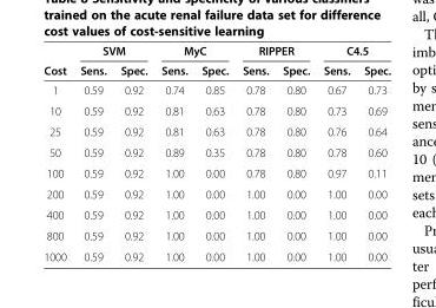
<table><thead><tr><td rowspan="2">Cost</td><td colspan="2">SVM</td><td colspan="2">MyC</td><td colspan="2">RIPPER</td><td colspan="2">C4.5</td></tr><tr><td>Sens.</td><td>Spec.</td><td>Sens.</td><td>Spec.</td><td>Sens.</td><td>Spec.</td><td>Sens.</td><td>Spec.</td></tr></thead><tbody><tr><td>1</td><td>0.59</td><td>0.92</td><td>0.74</td><td>0.85</td><td>0.78</td><td>0.80</td><td>0.67</td><td>0.73</td></tr><tr><td>10</td><td>0.59</td><td>0.92</td><td>0.81</td><td>0.63</td><td>0.78</td><td>0.80</td><td>0.73</td><td>0.69</td></tr><tr><td>25</td><td>0.59</td><td>0.92</td><td>0.81</td><td>0.63</td><td>0.78</td><td>0.80</td><td>0.76</td><td>0.64</td></tr><tr><td>50</td><td>0.59</td><td>0.92</td><td>0.89</td><td>0.35</td><td>0.78</td><td>0.80</td><td>0.78</td><td>0.60</td></tr><tr><td>100</td><td>0.59</td><td>0.92</td><td>1.00</td><td>0.00</td><td>0.78</td><td>0.80</td><td>0.97</td><td>0.11</td></tr><tr><td>200</td><td>0.59</td><td>0.92</td><td>1.00</td><td>0.00</td><td>1.00</td><td>0.00</td><td>1.00</td><td>0.00</td></tr><tr><td>400</td><td>0.59</td><td>0.92</td><td>1.00</td><td>0.00</td><td>1.00</td><td>0.00</td><td>1.00</td><td>0.00</td></tr><tr><td>800</td><td>0.59</td><td>0.92</td><td>1.00</td><td>0.00</td><td>1.00</td><td>0.00</td><td>1.00</td><td>0.00</td></tr><tr><td>1000</td><td>0.59</td><td>0.92</td><td>1.00</td><td>0.00</td><td>1.00</td><td>0.00</td><td>1.00</td><td>0.00</td></tr></tbody></table>